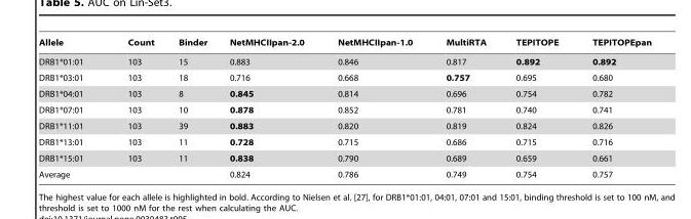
<table><thead><tr><td>Allele</td><td>Count</td><td>Binder</td><td>NetMHCIIpan-2.0</td><td>NetMHCIIpan-1.0</td><td>MultiRTA</td><td>TEPITOPE</td><td>TEPITOPEpan</td></tr></thead><tbody><tr><td>DRB1*01:01</td><td>103</td><td>15</td><td>0.883</td><td>0.846</td><td>0.817</td><td>0.892</td><td>0.892</td></tr><tr><td>DRB1*03:01</td><td>103</td><td>18</td><td>0.716</td><td>0.668</td><td>0.757</td><td>0.695</td><td>0.680</td></tr><tr><td>DRB1*04:01</td><td>103</td><td>8</td><td>0.845</td><td>0.814</td><td>0.696</td><td>0.754</td><td>0.782</td></tr><tr><td>DRB1*07:01</td><td>103</td><td>10</td><td>0.878</td><td>0.852</td><td>0.781</td><td>0.740</td><td>0.741</td></tr><tr><td>DRB1*11:01</td><td>103</td><td>39</td><td>0.883</td><td>0.820</td><td>0.819</td><td>0.824</td><td>0.826</td></tr><tr><td>DRB1*13:01</td><td>103</td><td>11</td><td>0.728</td><td>0.715</td><td>0.686</td><td>0.715</td><td>0.716</td></tr><tr><td>DRB1*15:01</td><td>103</td><td>11</td><td>0.838</td><td>0.790</td><td>0.689</td><td>0.659</td><td>0.661</td></tr><tr><td>Average</td><td></td><td></td><td>0.824</td><td>0.786</td><td>0.749</td><td>0.754</td><td>0.757</td></tr></tbody></table>